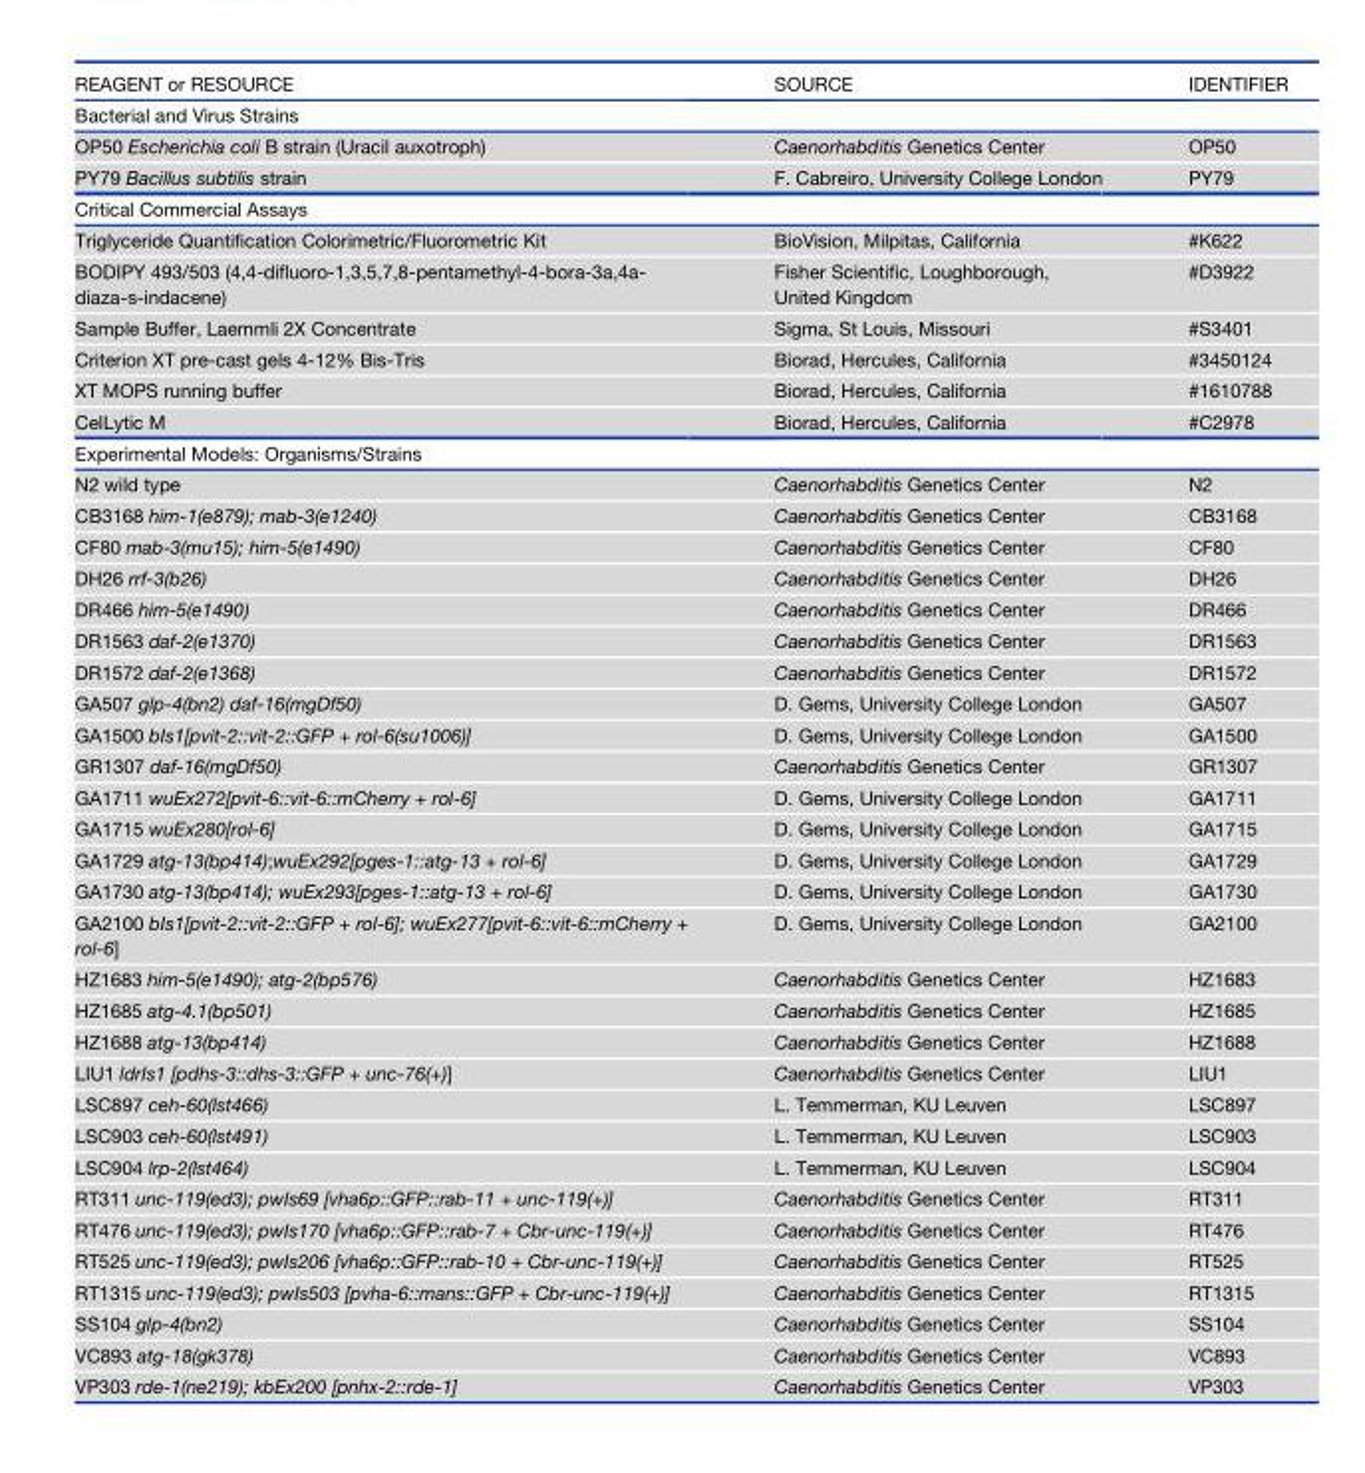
<table><thead><tr><td>REAGENT or RESOURCE</td><td>SOURCE</td><td>IDENTIFIER</td></tr></thead><tbody><tr><td colspan="3">Bacterial and Virus Strains</td></tr><tr><td>OP50 Escherichia coli B strain (Uracil auxotroph)</td><td>Caenorhabditis Genetics Center</td><td>OP50</td></tr><tr><td>PY79 Bacillus subtilis strain</td><td>F. Cabreiro, University College London</td><td>PY79</td></tr><tr><td colspan="3">Critical Commercial Assays</td></tr><tr><td>Triglyceride Quantification Colorimetric/Fluorometric Kit</td><td>BioVision, Milpitas, California</td><td>#K622</td></tr><tr><td>BODIPY 493/503 (4,4-difluoro-1,3,5,7,8-pentamethyl-4-bora-3a,4a- diaza-s-indacene)</td><td>Fisher Scientific, Loughborough, United Kingdom</td><td>#D3922</td></tr><tr><td>Sample Buffer, Laemmli 2X Concentrate</td><td>Sigma, St Louis, Missouri</td><td>#S3401</td></tr><tr><td>Criterion XT pre-cast gels 4-12% Bis-Tris</td><td>Biorad, Hercules, California</td><td>#3450124</td></tr><tr><td>XT MOPS running buffer</td><td>Biorad, Hercules, California</td><td>#1610788</td></tr><tr><td>CelLytic M</td><td>Biorad, Hercules, California</td><td>#C2978</td></tr><tr><td colspan="3">Experimental Models: Organisms/Strains</td></tr><tr><td>N2 wild type</td><td>Caenorhabditis Genetics Center</td><td>N2</td></tr><tr><td>CB3168 him-1(e879); mab-3(e1240)</td><td>Caenorhabditis Genetics Center</td><td>CB3168</td></tr><tr><td>CF80 mab-3(mu15); him-5(e1490)</td><td>Caenorhabditis Genetics Center</td><td>CF80</td></tr><tr><td>DH26 rrf-3(b26)</td><td>Caenorhabditis Genetics Center</td><td>DH26</td></tr><tr><td>DR466 him-5(e1490)</td><td>Caenorhabditis Genetics Center</td><td>DR466</td></tr><tr><td>DR1563 daf-2(e1370)</td><td>Caenorhabditis Genetics Center</td><td>DR1563</td></tr><tr><td>DR1572 daf-2(e1368)</td><td>Caenorhabditis Genetics Center</td><td>DR1572</td></tr><tr><td>GA507 glp-4(bn2) daf-16(mgDf50)</td><td>D. Gems, University College London</td><td>GA507</td></tr><tr><td>GA1500 bIs1[pvit-2::vit-2::GFP + rol-6(su1006)]</td><td>D. Gems, University College London</td><td>GA1500</td></tr><tr><td>GR1307 daf-16(mgDf50)</td><td>Caenorhabditis Genetics Center</td><td>GR1307</td></tr><tr><td>GA1711 wuEx272[pvit-6::vit-6::mCherry + rol-6]</td><td>D. Gems, University College London</td><td>GA1711</td></tr><tr><td>GA1715 wuEx280[rol-6]</td><td>D. Gems, University College London</td><td>GA1715</td></tr><tr><td>GA1729 atg-13(bp414);wuEx292[pges-1::atg-13 + rol-6]</td><td>D. Gems, University College London</td><td>GA1729</td></tr><tr><td>GA1730 atg-13(bp414); wuEx293[pges-1::atg-13 + rol-6]</td><td>D. Gems, University College London</td><td>GA1730</td></tr><tr><td>GA2100 bIs1[pvit-2::vit-2::GFP + rol-6]; wuEx277[pvit-6::vit-6::mCherry + rol-6]</td><td>D. Gems, University College London</td><td>GA2100</td></tr><tr><td>HZ1683 him-5(e1490); atg-2(bp576)</td><td>Caenorhabditis Genetics Center</td><td>HZ1683</td></tr><tr><td>HZ1685 atg-4.1(bp501)</td><td>Caenorhabditis Genetics Center</td><td>HZ1685</td></tr><tr><td>HZ1688 atg-13(bp414)</td><td>Caenorhabditis Genetics Center</td><td>HZ1688</td></tr><tr><td>LIU1 ldrIs1 [pdhs-3::dhs-3::GFP + unc-76(+)]</td><td>Caenorhabditis Genetics Center</td><td>LIU1</td></tr><tr><td>LSC897 ceh-60(lst466)</td><td>L. Temmerman, KU Leuven</td><td>LSC897</td></tr><tr><td>LSC903 ceh-60(lst491)</td><td>L. Temmerman, KU Leuven</td><td>LSC903</td></tr><tr><td>LSC904 lrp-2(lst464)</td><td>L. Temmerman, KU Leuven</td><td>LSC904</td></tr><tr><td>RT311 unc-119(ed3); pwIs69 [vha6p::GFP::rab-11 + unc-119(+)]</td><td>Caenorhabditis Genetics Center</td><td>RT311</td></tr><tr><td>RT476 unc-119(ed3); pwIs170 [vha6p::GFP::rab-7 + Cbr-unc-119(+)]</td><td>Caenorhabditis Genetics Center</td><td>RT476</td></tr><tr><td>RT525 unc-119(ed3); pwIs206 [vha6p::GFP::rab-10 + Cbr-unc-119(+)]</td><td>Caenorhabditis Genetics Center</td><td>RT525</td></tr><tr><td>RT1315 unc-119(ed3); pwIs503 [pvha-6::mans::GFP + Cbr-unc-119(+)]</td><td>Caenorhabditis Genetics Center</td><td>RT1315</td></tr><tr><td>SS104 glp-4(bn2)</td><td>Caenorhabditis Genetics Center</td><td>SS104</td></tr><tr><td>VC893 atg-18(gk378)</td><td>Caenorhabditis Genetics Center</td><td>VC893</td></tr><tr><td>VP303 rde-1(ne219); kbEx200 [pnhx-2::rde-1]</td><td>Caenorhabditis Genetics Center</td><td>VP303</td></tr></tbody></table>